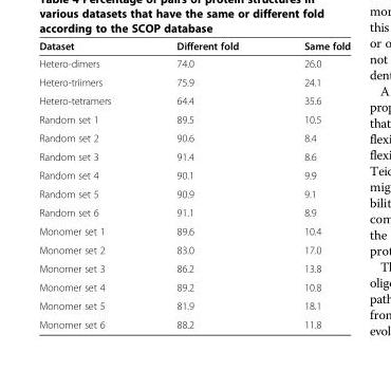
<table><thead><tr><td>Dataset</td><td>Different fold</td><td>Same fold</td></tr></thead><tbody><tr><td>Hetero-dimers</td><td>74.0</td><td>26.0</td></tr><tr><td>Hetero-triimers</td><td>75.9</td><td>24.1</td></tr><tr><td>Hetero-tetramers</td><td>64.4</td><td>35.6</td></tr><tr><td>Random set 1</td><td>89.5</td><td>10.5</td></tr><tr><td>Random set 2</td><td>90.6</td><td>8.4</td></tr><tr><td>Random set 3</td><td>91.4</td><td>8.6</td></tr><tr><td>Random set 4</td><td>90.1</td><td>9.9</td></tr><tr><td>Random set 5</td><td>90.9</td><td>9.1</td></tr><tr><td>Random set 6</td><td>91.1</td><td>8.9</td></tr><tr><td>Monomer set 1</td><td>89.6</td><td>10.4</td></tr><tr><td>Monomer set 2</td><td>83.0</td><td>17.0</td></tr><tr><td>Monomer set 3</td><td>86.2</td><td>13.8</td></tr><tr><td>Monomer set 4</td><td>89.2</td><td>10.8</td></tr><tr><td>Monomer set 5</td><td>81.9</td><td>18.1</td></tr><tr><td>Monomer set 6</td><td>88.2</td><td>11.8</td></tr></tbody></table>